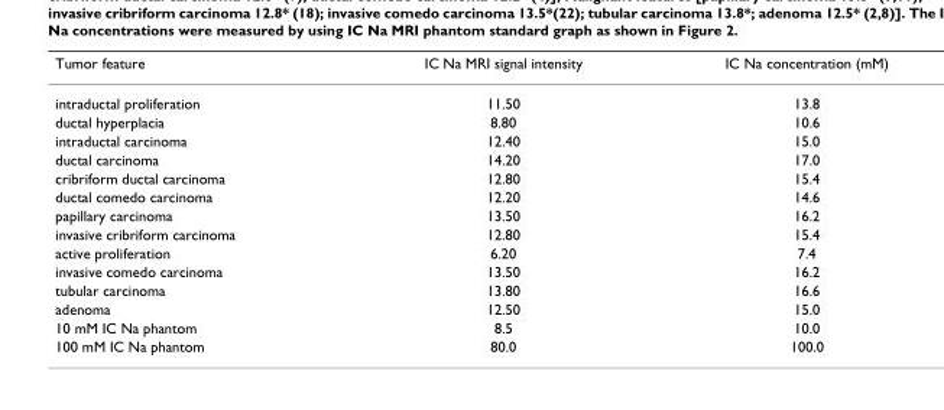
<table><thead><tr><td>Tumor feature</td><td>IC Na MRI signal intensity</td><td>IC Na concentration (mM)</td></tr></thead><tbody><tr><td>intraductal proliferation</td><td>11.50</td><td>13.8</td></tr><tr><td>ductal hyperplacia</td><td>8.80</td><td>10.6</td></tr><tr><td>intraductal carcinoma</td><td>12.40</td><td>15.0</td></tr><tr><td>ductal carcinoma</td><td>14.20</td><td>17.0</td></tr><tr><td>cribriform ductal carcinoma</td><td>12.80</td><td>15.4</td></tr><tr><td>ductal comedo carcinoma</td><td>12.20</td><td>14.6</td></tr><tr><td>papillary carcinoma</td><td>13.50</td><td>16.2</td></tr><tr><td>invasive cribriform carcinoma</td><td>12.80</td><td>15.4</td></tr><tr><td>active proliferation</td><td>6.20</td><td>7.4</td></tr><tr><td>invasive comedo carcinoma</td><td>13.50</td><td>16.2</td></tr><tr><td>tubular carcinoma</td><td>13.80</td><td>16.6</td></tr><tr><td>adenoma</td><td>12.50</td><td>15.0</td></tr><tr><td>10 mM IC Na phantom</td><td>8.5</td><td>10.0</td></tr><tr><td>100 mM IC Na phantom</td><td>80.0</td><td>100.0</td></tr></tbody></table>